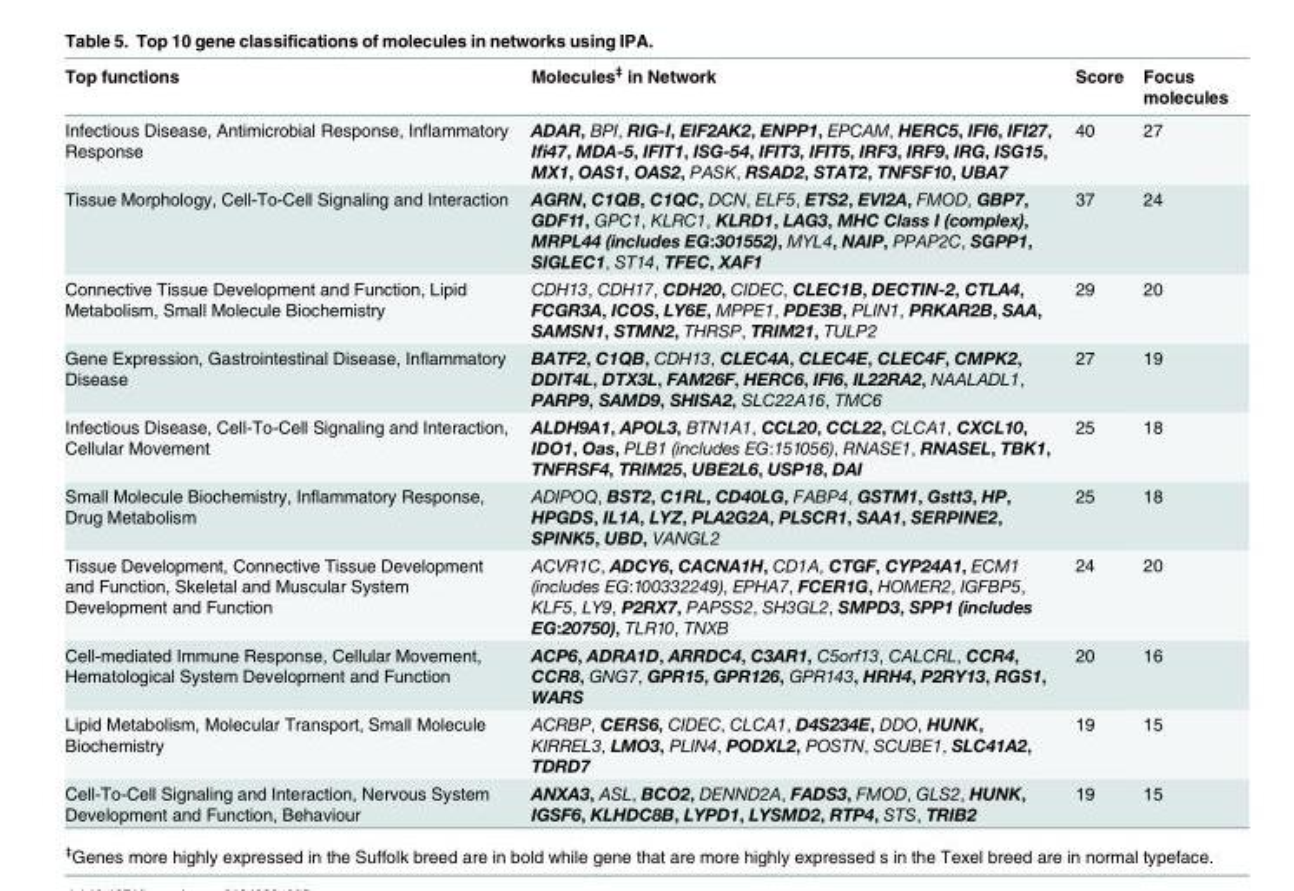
<table><thead><tr><td>Top functions</td><td>Molecules<sup>‡</sup> in Network</td><td>Score</td><td>Focus molecules</td></tr></thead><tbody><tr><td>Infectious Disease, Antimicrobial Response, Inflammatory Response</td><td>ADAR, BPI, RIG-I, EIF2AK2, ENPP1, EPCAM, HERC5, IFI6, IFI27, Ifi47, MDA-5, IFIT1, ISG-54, IFIT3, IFIT5, IRF3, IRF9, IRG, ISG15, MX1, OAS1, OAS2, PASK, RSAD2, STAT2, TNFSF10, UBA7</td><td>40</td><td>27</td></tr><tr><td>Tissue Morphology, Cell-To-Cell Signaling and Interaction</td><td>AGRN, C1QB, C1QC, DCN, ELF5, ETS2, EVI2A, FMOD, GBP7, GDF11, GPC1, KLRC1, KLRD1, LAG3, MHC Class I (complex), MRPL44 (includes EG:301552), MYL4, NAIP, PPAP2C, SGPP1, SIGLEC1, ST14, TFEC, XAF1</td><td>37</td><td>24</td></tr><tr><td>Connective Tissue Development and Function, Lipid Metabolism, Small Molecule Biochemistry</td><td>CDH13, CDH17, CDH20, CIDEC, CLEC1B, DECTIN-2, CTLA4, FCGR3A, ICOS, LY6E, MPPE1, PDE3B, PLIN1, PRKAR2B, SAA, SAMSN1, STMN2, THRSP, TRIM21, TULP2</td><td>29</td><td>20</td></tr><tr><td>Gene Expression, Gastrointestinal Disease, Inflammatory Disease</td><td>BATF2, C1QB, CDH13, CLEC4A, CLEC4E, CLEC4F, CMPK2, DDIT4L, DTX3L, FAM26F, HERC6, IFI6, IL22RA2, NAALADL1, PARP9, SAMD9, SHISA2, SLC22A16, TMC6</td><td>27</td><td>19</td></tr><tr><td>Infectious Disease, Cell-To-Cell Signaling and Interaction, Cellular Movement</td><td>ALDH9A1, APOL3, BTN1A1, CCL20, CCL22, CLCA1, CXCL10, IDO1, Oas, PLB1 (includes EG:151056), RNASE1, RNASEL, TBK1, TNFRSF4, TRIM25, UBE2L6, USP18, DAI</td><td>25</td><td>18</td></tr><tr><td>Small Molecule Biochemistry, Inflammatory Response, Drug Metabolism</td><td>ADIPOQ, BST2, C1RL, CD40LG, FABP4, GSTM1, Gstt3, HP, HPGDS, IL1A, LYZ, PLA2G2A, PLSCR1, SAA1, SERPINE2, SPINK5, UBD, VANGL2</td><td>25</td><td>18</td></tr><tr><td>Tissue Development, Connective Tissue Development and Function, Skeletal and Muscular System Development and Function</td><td>ACVR1C, ADCY6, CACNA1H, CD1A, CTGF, CYP24A1, ECM1 (includes EG:100332249), EPHA7, FCER1G, HOMER2, IGFBP5, KLF5, LY9, P2RX7, PAPSS2, SH3GL2, SMPD3, SPP1 (includes EG:20750), TLR10, TNXB</td><td>24</td><td>20</td></tr><tr><td>Cell-mediated Immune Response, Cellular Movement, Hematological System Development and Function</td><td>ACP6, ADRA1D, ARRDC4, C3AR1, C5orf13, CALCRL, CCR4, CCR8, GNG7, GPR15, GPR126, GPR143, HRH4, P2RY13, RGS1, WARS</td><td>20</td><td>16</td></tr><tr><td>Lipid Metabolism, Molecular Transport, Small Molecule Biochemistry</td><td>ACRBP, CERS6, CIDEC, CLCA1, D4S234E, DDO, HUNK, KIRREL3, LMO3, PLIN4, PODXL2, POSTN, SCUBE1, SLC41A2, TDRD7</td><td>19</td><td>15</td></tr><tr><td>Cell-To-Cell Signaling and Interaction, Nervous System Development and Function, Behaviour</td><td>ANXA3, ASL, BCO2, DENND2A, FADS3, FMOD, GLS2, HUNK, IGSF6, KLHDC8B, LYPD1, LYSMD2, RTP4, STS, TRIB2</td><td>19</td><td>15</td></tr></tbody></table>